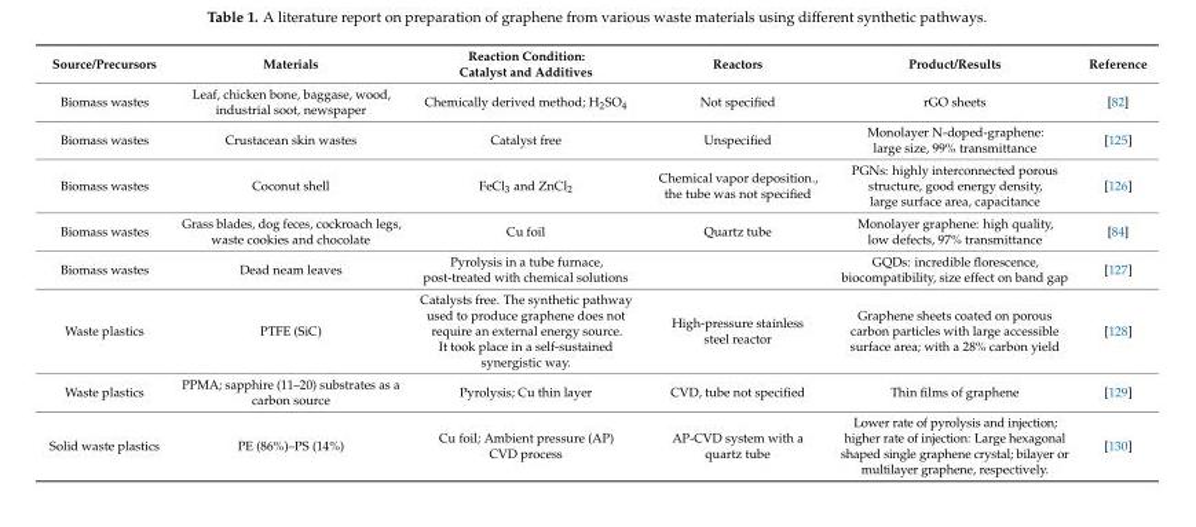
<table><thead><tr><td>Source/Precursors</td><td>Materials</td><td>Reaction Condition: Catalyst and Additives</td><td>Reactors</td><td>Product/Results</td><td>Reference</td></tr></thead><tbody><tr><td>Biomass wastes</td><td>Leaf, chicken bone, baggase, wood, industrial soot, newspaper</td><td>Chemically derived method; H<sub>2</sub>SO<sub>4</sub></td><td>Not specified</td><td>rGO sheets</td><td>[82]</td></tr><tr><td>Biomass wastes</td><td>Crustacean skin wastes</td><td>Catalyst free</td><td>Unspecified</td><td>Monolayer N-doped-graphene: large size, 99% transmittance</td><td>[125]</td></tr><tr><td>Biomass wastes</td><td>Coconut shell</td><td>FeCl<sub>3</sub> and ZnCl<sub>2</sub></td><td>Chemical vapor deposition., the tube was not specified</td><td>PGNs: highly interconnected porous structure, good energy density, large surface area, capacitance</td><td>[126]</td></tr><tr><td>Biomass wastes</td><td>Grass blades, dog feces, cockroach legs, waste cookies and chocolate</td><td>Cu foil</td><td>Quartz tube</td><td>Monolayer graphene: high quality, low defects, 97% transmittance</td><td>[84]</td></tr><tr><td>Biomass wastes</td><td>Dead neam leaves</td><td>Pyrolysis in a tube furnace, post-treated with chemical solutions</td><td></td><td>GQDs: incredible florescence, biocompatibility, size effect on band gap</td><td>[127]</td></tr><tr><td>Waste plastics</td><td>PTFE (SiC)</td><td>Catalysts free. The synthetic pathway used to produce graphene does not require an external energy source. It took place in a self-sustained synergistic way.</td><td>High-pressure stainless steel reactor</td><td>Graphene sheets coated on porous carbon particles with large accessible surface area; with a 28% carbon yield</td><td>[128]</td></tr><tr><td>Waste plastics</td><td>PPMA; sapphire (11–20) substrates as a carbon source</td><td>Pyrolysis; Cu thin layer</td><td>CVD, tube not specified</td><td>Thin films of graphene</td><td>[129]</td></tr><tr><td>Solid waste plastics</td><td>PE (86%)–PS (14%)</td><td>Cu foil; Ambient pressure (AP) CVD process</td><td>AP-CVD system with a quartz tube</td><td>Lower rate of pyrolysis and injection; higher rate of injection: Large hexagonal shaped single graphene crystal; bilayer or multilayer graphene, respectively.</td><td>[130]</td></tr></tbody></table>